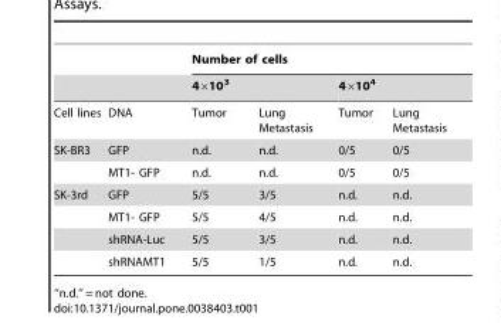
<table><thead><tr><td rowspan="3">Cell lines</td><td rowspan="3">DNA</td><td colspan="4">Number of cells</td></tr><tr><td colspan="2">4×10<sup>3</sup></td><td colspan="2">4×10<sup>4</sup></td></tr><tr><td>Tumor</td><td>Lung Metastasis</td><td>Tumor</td><td>Lung Metastasis</td></tr></thead><tbody><tr><td rowspan="2">SK-BR3</td><td>GFP</td><td>n.d.</td><td>n.d.</td><td>0/5</td><td>0/5</td></tr><tr><td>MT1- GFP</td><td>n.d.</td><td>n.d.</td><td>0/5</td><td>0/5</td></tr><tr><td rowspan="4">SK-3rd</td><td>GFP</td><td>5/5</td><td>3/5</td><td>n.d.</td><td>n.d.</td></tr><tr><td>MT1- GFP</td><td>5/5</td><td>4/5</td><td>n.d.</td><td>n.d.</td></tr><tr><td>shRNA-Luc</td><td>5/5</td><td>3/5</td><td>n.d.</td><td>n.d.</td></tr><tr><td>shRNAMT1</td><td>5/5</td><td>1/5</td><td>n.d.</td><td>n.d.</td></tr></tbody></table>